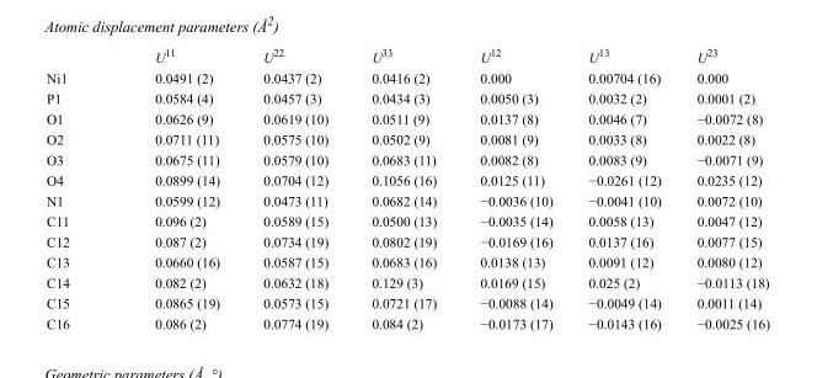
<table><thead><tr><td></td><td>U<sup>11</sup></td><td>U<sup>22</sup></td><td>U<sup>33</sup></td><td>U<sup>12</sup></td><td>U<sup>13</sup></td><td>U<sup>23</sup></td></tr></thead><tbody><tr><td>Ni1</td><td>0.0491 (2)</td><td>0.0437 (2)</td><td>0.0416 (2)</td><td>0.000</td><td>0.00704 (16)</td><td>0.000</td></tr><tr><td>P1</td><td>0.0584 (4)</td><td>0.0457 (3)</td><td>0.0434 (3)</td><td>0.0050 (3)</td><td>0.0032 (2)</td><td>0.0001 (2)</td></tr><tr><td>O1</td><td>0.0626 (9)</td><td>0.0619 (10)</td><td>0.0511 (9)</td><td>0.0137 (8)</td><td>0.0046 (7)</td><td>−0.0072 (8)</td></tr><tr><td>O2</td><td>0.0711 (11)</td><td>0.0575 (10)</td><td>0.0502 (9)</td><td>0.0081 (9)</td><td>0.0033 (8)</td><td>0.0022 (8)</td></tr><tr><td>O3</td><td>0.0675 (11)</td><td>0.0579 (10)</td><td>0.0683 (11)</td><td>0.0082 (8)</td><td>0.0083 (9)</td><td>−0.0071 (9)</td></tr><tr><td>O4</td><td>0.0899 (14)</td><td>0.0704 (12)</td><td>0.1056 (16)</td><td>0.0125 (11)</td><td>−0.0261 (12)</td><td>0.0235 (12)</td></tr><tr><td>N1</td><td>0.0599 (12)</td><td>0.0473 (11)</td><td>0.0682 (14)</td><td>−0.0036 (10)</td><td>−0.0041 (10)</td><td>0.0072 (10)</td></tr><tr><td>C11</td><td>0.096 (2)</td><td>0.0589 (15)</td><td>0.0500 (13)</td><td>−0.0035 (14)</td><td>0.0058 (13)</td><td>0.0047 (12)</td></tr><tr><td>C12</td><td>0.087 (2)</td><td>0.0734 (19)</td><td>0.0802 (19)</td><td>−0.0169 (16)</td><td>0.0137 (16)</td><td>0.0077 (15)</td></tr><tr><td>C13</td><td>0.0660 (16)</td><td>0.0587 (15)</td><td>0.0683 (16)</td><td>0.0138 (13)</td><td>0.0091 (12)</td><td>0.0080 (12)</td></tr><tr><td>C14</td><td>0.082 (2)</td><td>0.0632 (18)</td><td>0.129 (3)</td><td>0.0169 (15)</td><td>0.025 (2)</td><td>−0.0113 (18)</td></tr><tr><td>C15</td><td>0.0865 (19)</td><td>0.0573 (15)</td><td>0.0721 (17)</td><td>−0.0088 (14)</td><td>−0.0049 (14)</td><td>0.0011 (14)</td></tr><tr><td>C16</td><td>0.086 (2)</td><td>0.0774 (19)</td><td>0.084 (2)</td><td>−0.0173 (17)</td><td>−0.0143 (16)</td><td>−0.0025 (16)</td></tr></tbody></table>